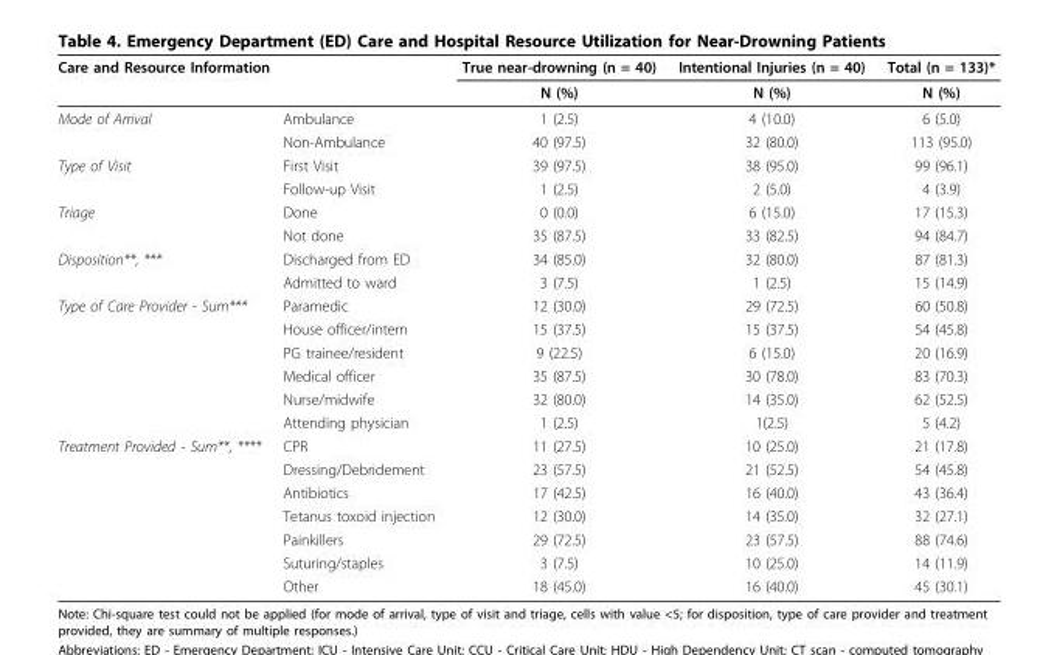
<table><thead><tr><td colspan="2">Care and Resource Information</td><td rowspan="2">True near-drowning (n = 40) N (%)</td><td rowspan="2">Intentional Injuries (n = 40) N (%)</td><td rowspan="2">Total (n = 133)* N (%)</td></tr><tr><td></td><td></td></tr></thead><tbody><tr><td rowspan="2">Mode of Arrival</td><td>Ambulance</td><td>1 (2.5)</td><td>4 (10.0)</td><td>6 (5.0)</td></tr><tr><td>Non-Ambulance</td><td>40 (97.5)</td><td>32 (80.0)</td><td>113 (95.0)</td></tr><tr><td rowspan="2">Type of Visit</td><td>First Visit</td><td>39 (97.5)</td><td>38 (95.0)</td><td>99 (96.1)</td></tr><tr><td>Follow-up Visit</td><td>1 (2.5)</td><td>2 (5.0)</td><td>4 (3.9)</td></tr><tr><td rowspan="2">Triage</td><td>Done</td><td>0 (0.0)</td><td>6 (15.0)</td><td>17 (15.3)</td></tr><tr><td>Not done</td><td>35 (87.5)</td><td>33 (82.5)</td><td>94 (84.7)</td></tr><tr><td rowspan="2">Disposition**, ***</td><td>Discharged from ED</td><td>34 (85.0)</td><td>32 (80.0)</td><td>87 (81.3)</td></tr><tr><td>Admitted to ward</td><td>3 (7.5)</td><td>1 (2.5)</td><td>15 (14.9)</td></tr><tr><td rowspan="6">Type of Care Provider - Sum***</td><td>Paramedic</td><td>12 (30.0)</td><td>29 (72.5)</td><td>60 (50.8)</td></tr><tr><td>House officer/intern</td><td>15 (37.5)</td><td>15 (37.5)</td><td>54 (45.8)</td></tr><tr><td>PG trainee/resident</td><td>9 (22.5)</td><td>6 (15.0)</td><td>20 (16.9)</td></tr><tr><td>Medical officer</td><td>35 (87.5)</td><td>30 (78.0)</td><td>83 (70.3)</td></tr><tr><td>Nurse/midwife</td><td>32 (80.0)</td><td>14 (35.0)</td><td>62 (52.5)</td></tr><tr><td>Attending physician</td><td>1 (2.5)</td><td>1(2.5)</td><td>5 (4.2)</td></tr><tr><td rowspan="7">Treatment Provided - Sum**, ****</td><td>CPR</td><td>11 (27.5)</td><td>10 (25.0)</td><td>21 (17.8)</td></tr><tr><td>Dressing/Debridement</td><td>23 (57.5)</td><td>21 (52.5)</td><td>54 (45.8)</td></tr><tr><td>Antibiotics</td><td>17 (42.5)</td><td>16 (40.0)</td><td>43 (36.4)</td></tr><tr><td>Tetanus toxoid injection</td><td>12 (30.0)</td><td>14 (35.0)</td><td>32 (27.1)</td></tr><tr><td>Painkillers</td><td>29 (72.5)</td><td>23 (57.5)</td><td>88 (74.6)</td></tr><tr><td>Suturing/staples</td><td>3 (7.5)</td><td>10 (25.0)</td><td>14 (11.9)</td></tr><tr><td>Other</td><td>18 (45.0)</td><td>16 (40.0)</td><td>45 (30.1)</td></tr></tbody></table>